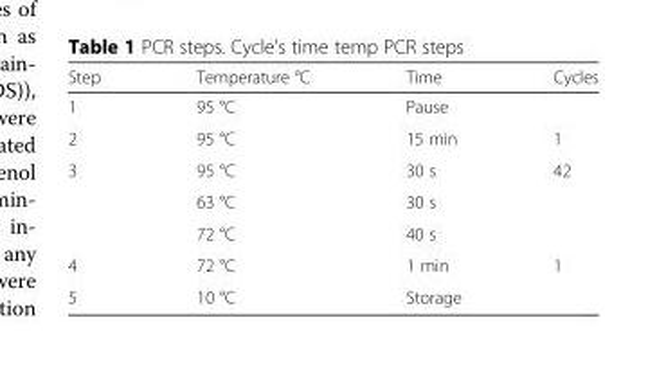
<table><thead><tr><td>Step</td><td>Temperature °C</td><td>Time</td><td>Cycles</td></tr></thead><tbody><tr><td>1</td><td>95 °C</td><td colspan="2">Pause</td></tr><tr><td>2</td><td>95 °C</td><td>15 min</td><td>1</td></tr><tr><td rowspan="3">3</td><td>95 °C</td><td>30 s</td><td rowspan="3">42</td></tr><tr><td>63 °C</td><td>30 s</td></tr><tr><td>72 °C</td><td>40 s</td></tr><tr><td>4</td><td>72 °C</td><td>1 min</td><td>1</td></tr><tr><td>5</td><td>10 °C</td><td colspan="2">Storage</td></tr></tbody></table>